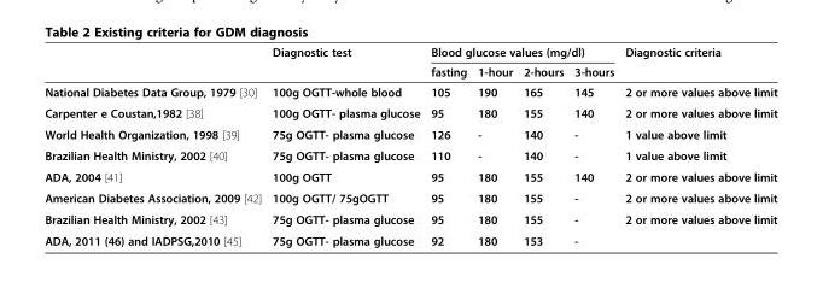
<table><thead><tr><td rowspan="2"></td><td rowspan="2">Diagnostic test</td><td colspan="4">Blood glucose values (mg/dl)</td><td rowspan="2">Diagnostic criteria</td></tr><tr><td>fasting</td><td>1-hour</td><td>2-hours</td><td>3-hours</td></tr></thead><tbody><tr><td>National Diabetes Data Group, 1979 [30]</td><td>100g OGTT-whole blood</td><td>105</td><td>190</td><td>165</td><td>145</td><td>2 or more values above limit</td></tr><tr><td>Carpenter e Coustan,1982 [38]</td><td>100g OGTT- plasma glucose</td><td>95</td><td>180</td><td>155</td><td>140</td><td>2 or more values above limit</td></tr><tr><td>World Health Organization, 1998 [39]</td><td>75g OGTT- plasma glucose</td><td>126</td><td>-</td><td>140</td><td>-</td><td>1 value above limit</td></tr><tr><td>Brazilian Health Ministry, 2002 [40]</td><td>75g OGTT- plasma glucose</td><td>110</td><td>-</td><td>140</td><td>-</td><td>1 value above limit</td></tr><tr><td>ADA, 2004 [41]</td><td>100g OGTT</td><td>95</td><td>180</td><td>155</td><td>140</td><td>2 or more values above limit</td></tr><tr><td>American Diabetes Association, 2009 [42]</td><td>100g OGTT/ 75gOGTT</td><td>95</td><td>180</td><td>155</td><td>-</td><td>2 or more values above limit</td></tr><tr><td>Brazilian Health Ministry, 2002 [43]</td><td>75g OGTT- plasma glucose</td><td>95</td><td>180</td><td>155</td><td>-</td><td>2 or more values above limit</td></tr><tr><td>ADA, 2011 (46) and IADPSG,2010 [45]</td><td>75g OGTT- plasma glucose</td><td>92</td><td>180</td><td>153</td><td>-</td><td></td></tr></tbody></table>